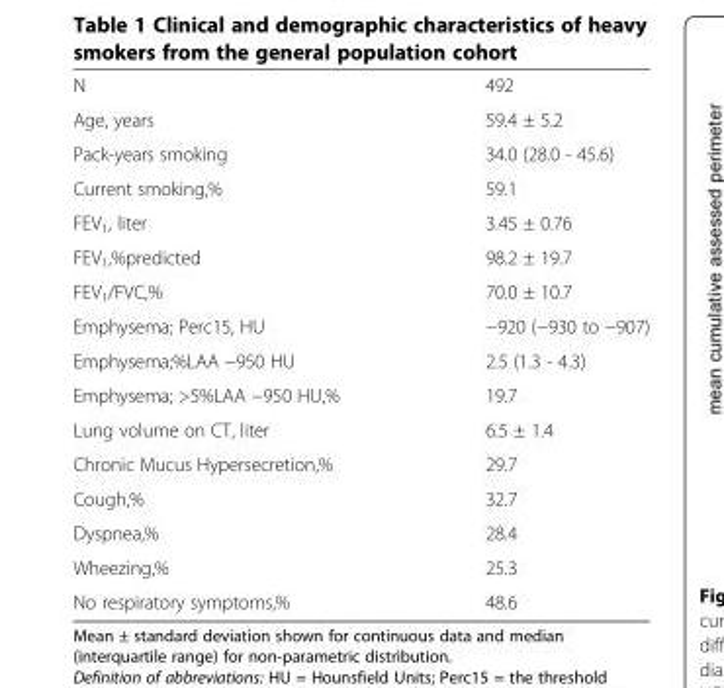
<table><tbody><tr><td>N</td><td>492</td></tr><tr><td>Age, years</td><td>59.4 ± 5.2</td></tr><tr><td>Pack-years smoking</td><td>34.0 (28.0 - 45.6)</td></tr><tr><td>Current smoking,%</td><td>59.1</td></tr><tr><td>FEV<sub>1</sub>, liter</td><td>3.45 ± 0.76</td></tr><tr><td>FEV<sub>1</sub>,%predicted</td><td>98.2 ± 19.7</td></tr><tr><td>FEV<sub>1</sub>/FVC,%</td><td>70.0 ± 10.7</td></tr><tr><td>Emphysema; Perc15, HU</td><td>−920 (−930 to −907)</td></tr><tr><td>Emphysema;%LAA −950 HU</td><td>2.5 (1.3 - 4.3)</td></tr><tr><td>Emphysema; &gt;5%LAA −950 HU,%</td><td>19.7</td></tr><tr><td>Lung volume on CT, liter</td><td>6.5 ± 1.4</td></tr><tr><td>Chronic Mucus Hypersecretion,%</td><td>29.7</td></tr><tr><td>Cough,%</td><td>32.7</td></tr><tr><td>Dyspnea,%</td><td>28.4</td></tr><tr><td>Wheezing,%</td><td>25.3</td></tr><tr><td>No respiratory symptoms,%</td><td>48.6</td></tr></tbody></table>